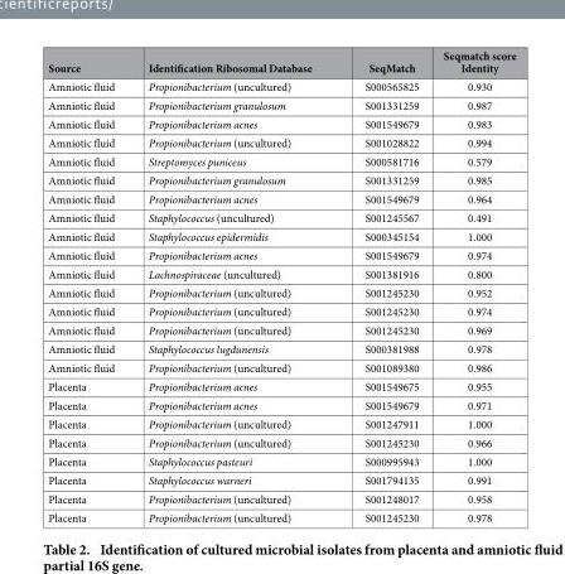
<table><thead><tr><td>Source</td><td>Identification Ribosomal Database</td><td>SeqMatch</td><td>Seqmatch score Identity</td></tr></thead><tbody><tr><td>Amniotic fluid</td><td>Propionibacterium (uncultured)</td><td>S000565825</td><td>0.930</td></tr><tr><td>Amniotic fluid</td><td>Propionibacterium granulosum</td><td>S001331259</td><td>0.987</td></tr><tr><td>Amniotic fluid</td><td>Propionibacterium acnes</td><td>S001549679</td><td>0.983</td></tr><tr><td>Amniotic fluid</td><td>Propionibacterium (uncultured)</td><td>S001028822</td><td>0.994</td></tr><tr><td>Amniotic fluid</td><td>Streptomyces puniceus</td><td>S000581716</td><td>0.579</td></tr><tr><td>Amniotic fluid</td><td>Propionibacterium granulosum</td><td>S001331259</td><td>0.985</td></tr><tr><td>Amniotic fluid</td><td>Propionibacterium acnes</td><td>S001549679</td><td>0.964</td></tr><tr><td>Amniotic fluid</td><td>Staphylococcus (uncultured)</td><td>S001245567</td><td>0.491</td></tr><tr><td>Amniotic fluid</td><td>Staphylococcus epidermidis</td><td>S000345154</td><td>1.000</td></tr><tr><td>Amniotic fluid</td><td>Propionibacterium acnes</td><td>S001549679</td><td>0.974</td></tr><tr><td>Amniotic fluid</td><td>Lachnospiraceae (uncultured)</td><td>S001381916</td><td>0.800</td></tr><tr><td>Amniotic fluid</td><td>Propionibacterium (uncultured)</td><td>S001245230</td><td>0.952</td></tr><tr><td>Amniotic fluid</td><td>Propionibacterium (uncultured)</td><td>S001245230</td><td>0.974</td></tr><tr><td>Amniotic fluid</td><td>Propionibacterium (uncultured)</td><td>S001245230</td><td>0.969</td></tr><tr><td>Amniotic fluid</td><td>Staphylococcus lugdunensis</td><td>S000381988</td><td>0.978</td></tr><tr><td>Amniotic fluid</td><td>Propionibacterium (uncultured)</td><td>S001089380</td><td>0.986</td></tr><tr><td>Placenta</td><td>Propionibacterium acnes</td><td>S001549675</td><td>0.955</td></tr><tr><td>Placenta</td><td>Propionibacterium acnes</td><td>S001549679</td><td>0.971</td></tr><tr><td>Placenta</td><td>Propionibacterium (uncultured)</td><td>S001247911</td><td>1.000</td></tr><tr><td>Placenta</td><td>Propionibacterium (uncultured)</td><td>S001245230</td><td>0.966</td></tr><tr><td>Placenta</td><td>Staphylococcus pasteuri</td><td>S000995943</td><td>1.000</td></tr><tr><td>Placenta</td><td>Staphylococcus warneri</td><td>S001794135</td><td>0.991</td></tr><tr><td>Placenta</td><td>Propionibacterium (uncultured)</td><td>S001248017</td><td>0.958</td></tr><tr><td>Placenta</td><td>Propionibacterium (uncultured)</td><td>S001245230</td><td>0.978</td></tr></tbody></table>